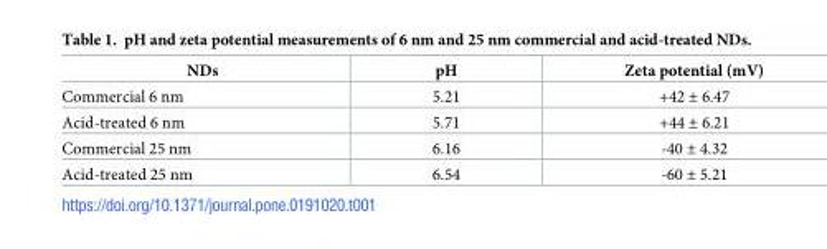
<table><thead><tr><td>NDs</td><td>pH</td><td>Zeta potential (mV)</td></tr></thead><tbody><tr><td>Commercial 6 nm</td><td>5.21</td><td>+42 ± 6.47</td></tr><tr><td>Acid-treated 6 nm</td><td>5.71</td><td>+44 ± 6.21</td></tr><tr><td>Commercial 25 nm</td><td>6.16</td><td>-40 ± 4.32</td></tr><tr><td>Acid-treated 25 nm</td><td>6.54</td><td>-60 ± 5.21</td></tr></tbody></table>